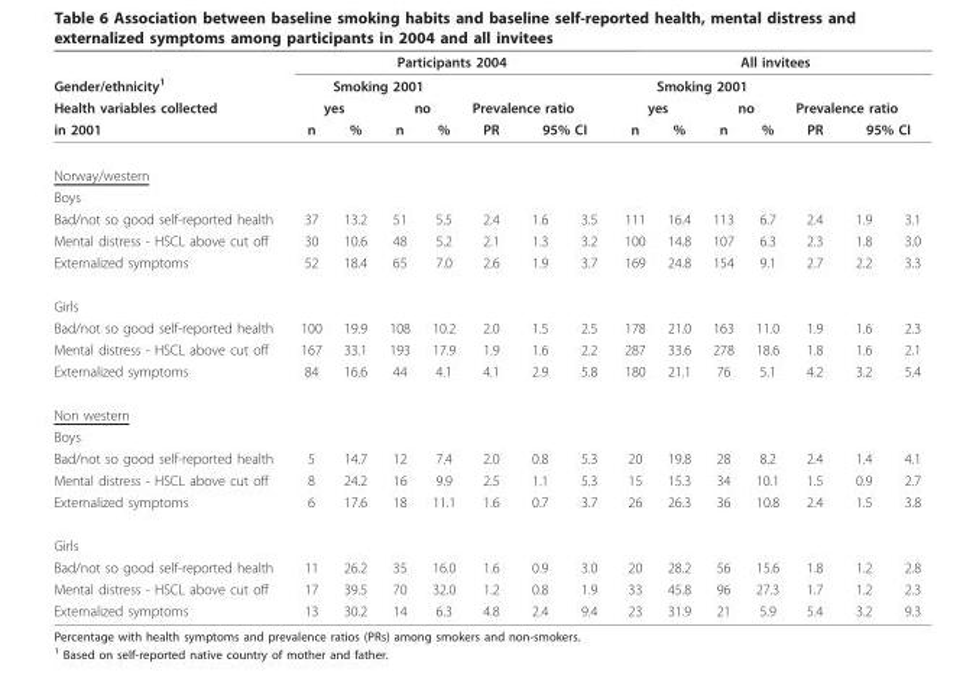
<table><thead><tr><td rowspan="4">Gender/ethnicity<sup>1</sup> Health variables collected in 2001</td><td colspan="7">Participants 2004</td><td colspan="7">All invitees</td></tr><tr><td colspan="4">Smoking 2001</td><td></td><td></td><td></td><td colspan="4">Smoking 2001</td><td></td><td></td><td></td></tr><tr><td colspan="2">yes</td><td colspan="2">no</td><td colspan="3">Prevalence ratio</td><td colspan="2">yes</td><td colspan="2">no</td><td colspan="3">Prevalence ratio</td></tr><tr><td>n</td><td>%</td><td>n</td><td>%</td><td>PR</td><td colspan="2">95% CI</td><td>n</td><td>%</td><td>n</td><td>%</td><td>PR</td><td colspan="2">95% CI</td></tr></thead><tbody><tr><td colspan="15">Norway/western</td></tr><tr><td colspan="15">Boys</td></tr><tr><td>Bad/not so good self-reported health</td><td>37</td><td>13.2</td><td>51</td><td>5.5</td><td>2.4</td><td>1.6</td><td>3.5</td><td>111</td><td>16.4</td><td>113</td><td>6.7</td><td>2.4</td><td>1.9</td><td>3.1</td></tr><tr><td>Mental distress - HSCL above cut off</td><td>30</td><td>10.6</td><td>48</td><td>5.2</td><td>2.1</td><td>1.3</td><td>3.2</td><td>100</td><td>14.8</td><td>107</td><td>6.3</td><td>2.3</td><td>1.8</td><td>3.0</td></tr><tr><td>Externalized symptoms</td><td>52</td><td>18.4</td><td>65</td><td>7.0</td><td>2.6</td><td>1.9</td><td>3.7</td><td>169</td><td>24.8</td><td>154</td><td>9.1</td><td>2.7</td><td>2.2</td><td>3.3</td></tr><tr><td colspan="15">Girls</td></tr><tr><td>Bad/not so good self-reported health</td><td>100</td><td>19.9</td><td>108</td><td>10.2</td><td>2.0</td><td>1.5</td><td>2.5</td><td>178</td><td>21.0</td><td>163</td><td>11.0</td><td>1.9</td><td>1.6</td><td>2.3</td></tr><tr><td>Mental distress - HSCL above cut off</td><td>167</td><td>33.1</td><td>193</td><td>17.9</td><td>1.9</td><td>1.6</td><td>2.2</td><td>287</td><td>33.6</td><td>278</td><td>18.6</td><td>1.8</td><td>1.6</td><td>2.1</td></tr><tr><td>Externalized symptoms</td><td>84</td><td>16.6</td><td>44</td><td>4.1</td><td>4.1</td><td>2.9</td><td>5.8</td><td>180</td><td>21.1</td><td>76</td><td>5.1</td><td>4.2</td><td>3.2</td><td>5.4</td></tr><tr><td colspan="15">Non western</td></tr><tr><td colspan="15">Boys</td></tr><tr><td>Bad/not so good self-reported health</td><td>5</td><td>14.7</td><td>12</td><td>7.4</td><td>2.0</td><td>0.8</td><td>5.3</td><td>20</td><td>19.8</td><td>28</td><td>8.2</td><td>2.4</td><td>1.4</td><td>4.1</td></tr><tr><td>Mental distress - HSCL above cut off</td><td>8</td><td>24.2</td><td>16</td><td>9.9</td><td>2.5</td><td>1.1</td><td>5.3</td><td>15</td><td>15.3</td><td>34</td><td>10.1</td><td>1.5</td><td>0.9</td><td>2.7</td></tr><tr><td>Externalized symptoms</td><td>6</td><td>17.6</td><td>18</td><td>11.1</td><td>1.6</td><td>0.7</td><td>3.7</td><td>26</td><td>26.3</td><td>36</td><td>10.8</td><td>2.4</td><td>1.5</td><td>3.8</td></tr><tr><td colspan="15">Girls</td></tr><tr><td>Bad/not so good self-reported health</td><td>11</td><td>26.2</td><td>35</td><td>16.0</td><td>1.6</td><td>0.9</td><td>3.0</td><td>20</td><td>28.2</td><td>56</td><td>15.6</td><td>1.8</td><td>1.2</td><td>2.8</td></tr><tr><td>Mental distress - HSCL above cut off</td><td>17</td><td>39.5</td><td>70</td><td>32.0</td><td>1.2</td><td>0.8</td><td>1.9</td><td>33</td><td>45.8</td><td>96</td><td>27.3</td><td>1.7</td><td>1.2</td><td>2.3</td></tr><tr><td>Externalized symptoms</td><td>13</td><td>30.2</td><td>14</td><td>6.3</td><td>4.8</td><td>2.4</td><td>9.4</td><td>23</td><td>31.9</td><td>21</td><td>5.9</td><td>5.4</td><td>3.2</td><td>9.3</td></tr></tbody></table>